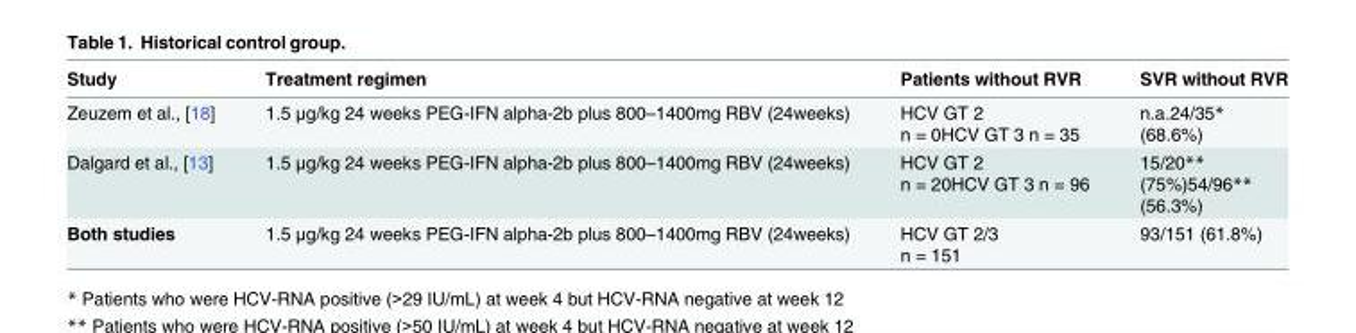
<table><thead><tr><td>Study</td><td>Treatment regimen</td><td>Patients without RVR</td><td>SVR without RVR</td></tr></thead><tbody><tr><td>Zeuzem et al., [18]</td><td>1.5 μg/kg 24 weeks PEG-IFN alpha-2b plus 800–1400mg RBV (24weeks)</td><td>HCV GT 2 n = 0HCV GT 3 n = 35</td><td>n.a.24/35* (68.6%)</td></tr><tr><td>Dalgard et al., [13]</td><td>1.5 μg/kg 24 weeks PEG-IFN alpha-2b plus 800–1400mg RBV (24weeks)</td><td>HCV GT 2 n = 20HCV GT 3 n = 96</td><td>15/20** (75%)54/96** (56.3%)</td></tr><tr><td>Both studies</td><td>1.5 μg/kg 24 weeks PEG-IFN alpha-2b plus 800–1400mg RBV (24weeks)</td><td>HCV GT 2/3 n = 151</td><td>93/151 (61.8%)</td></tr></tbody></table>